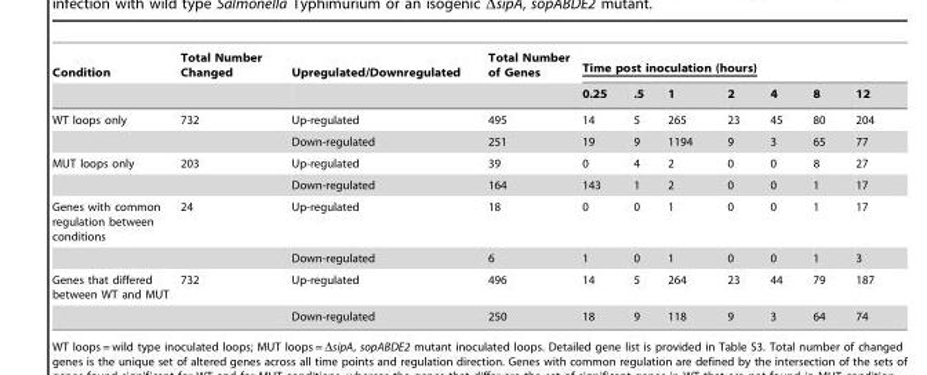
<table><thead><tr><td rowspan="2">Condition</td><td rowspan="2">Total Number Changed</td><td rowspan="2">Upregulated/Downregulated</td><td rowspan="2">Total Number of Genes</td><td colspan="7">Time post inoculation (hours)</td></tr><tr><td>0.25</td><td>.5</td><td>1</td><td>2</td><td>4</td><td>8</td><td>12</td></tr></thead><tbody><tr><td rowspan="2">WT loops only</td><td>732</td><td>Up-regulated</td><td>495</td><td>14</td><td>5</td><td>265</td><td>23</td><td>45</td><td>80</td><td>204</td></tr><tr><td></td><td>Down-regulated</td><td>251</td><td>19</td><td>9</td><td>1194</td><td>9</td><td>3</td><td>65</td><td>77</td></tr><tr><td rowspan="2">MUT loops only</td><td>203</td><td>Up-regulated</td><td>39</td><td>0</td><td>4</td><td>2</td><td>0</td><td>0</td><td>8</td><td>27</td></tr><tr><td></td><td>Down-regulated</td><td>164</td><td>143</td><td>1</td><td>2</td><td>0</td><td>0</td><td>1</td><td>17</td></tr><tr><td rowspan="2">Genes with common regulation between conditions</td><td>24</td><td>Up-regulated</td><td>18</td><td>0</td><td>0</td><td>1</td><td>0</td><td>0</td><td>1</td><td>17</td></tr><tr><td></td><td>Down-regulated</td><td>6</td><td>1</td><td>0</td><td>1</td><td>0</td><td>0</td><td>1</td><td>3</td></tr><tr><td rowspan="2">Genes that differed between WT and MUT</td><td>732</td><td>Up-regulated</td><td>496</td><td>14</td><td>5</td><td>264</td><td>23</td><td>44</td><td>79</td><td>187</td></tr><tr><td></td><td>Down-regulated</td><td>250</td><td>18</td><td>9</td><td>118</td><td>9</td><td>3</td><td>64</td><td>74</td></tr></tbody></table>